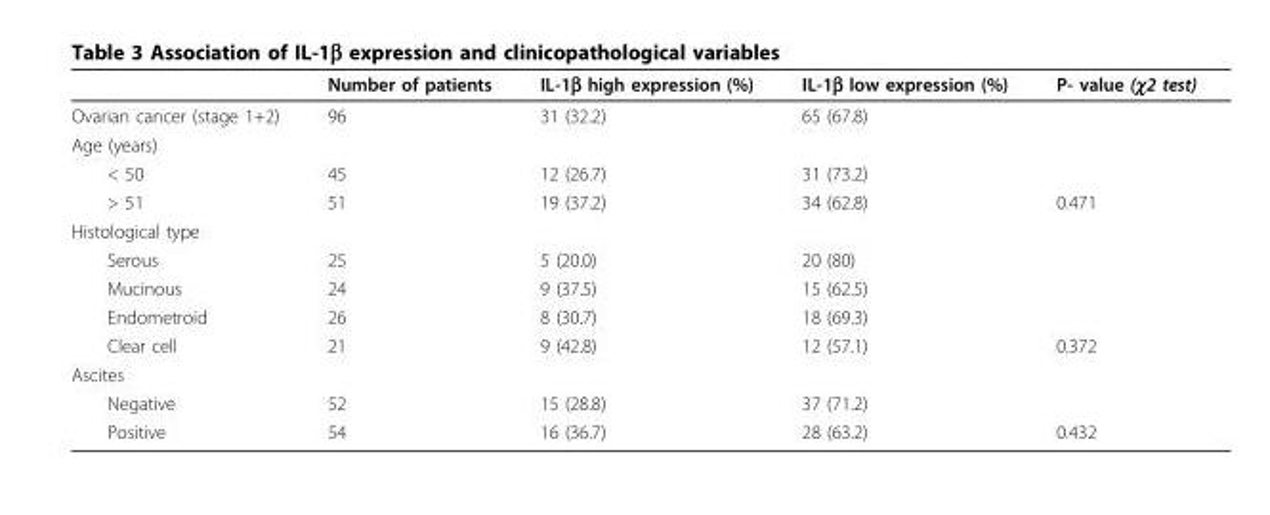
<table><thead><tr><td></td><td>Number of patients</td><td>IL-1β high expression (%)</td><td>IL-1β low expression (%)</td><td>P- value (χ2 test)</td></tr></thead><tbody><tr><td>Ovarian cancer (stage 1+2)</td><td>96</td><td>31 (32.2)</td><td>65 (67.8)</td><td></td></tr><tr><td colspan="5">Age (years)</td></tr><tr><td>&lt; 50</td><td>45</td><td>12 (26.7)</td><td>31 (73.2)</td><td></td></tr><tr><td>&gt; 51</td><td>51</td><td>19 (37.2)</td><td>34 (62.8)</td><td>0.471</td></tr><tr><td colspan="5">Histological type</td></tr><tr><td>Serous</td><td>25</td><td>5 (20.0)</td><td>20 (80)</td><td></td></tr><tr><td>Mucinous</td><td>24</td><td>9 (37.5)</td><td>15 (62.5)</td><td></td></tr><tr><td>Endometroid</td><td>26</td><td>8 (30.7)</td><td>18 (69.3)</td><td></td></tr><tr><td>Clear cell</td><td>21</td><td>9 (42.8)</td><td>12 (57.1)</td><td>0.372</td></tr><tr><td colspan="5">Ascites</td></tr><tr><td>Negative</td><td>52</td><td>15 (28.8)</td><td>37 (71.2)</td><td></td></tr><tr><td>Positive</td><td>54</td><td>16 (36.7)</td><td>28 (63.2)</td><td>0.432</td></tr></tbody></table>